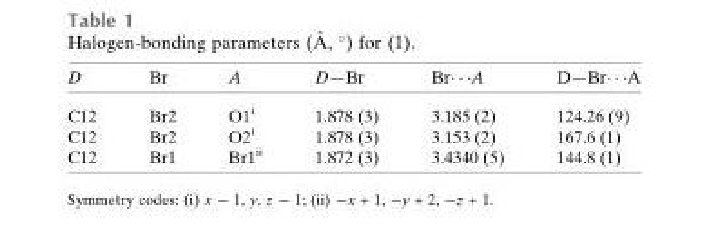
<table><thead><tr><td>D</td><td>Br</td><td>A</td><td>D—Br</td><td>Br� � �A</td><td>D—Br� � �A</td></tr></thead><tbody><tr><td>C12</td><td>Br2</td><td>O1<sup>i</sup></td><td>1.878 (3)</td><td>3.185 (2)</td><td>124.26 (9)</td></tr><tr><td>C12</td><td>Br2</td><td>O2<sup>i</sup></td><td>1.878 (3)</td><td>3.153 (2)</td><td>167.6 (1)</td></tr><tr><td>C12</td><td>Br1</td><td>Br1<sup>ii</sup></td><td>1.872 (3)</td><td>3.4340 (5)</td><td>144.8 (1)</td></tr></tbody></table>